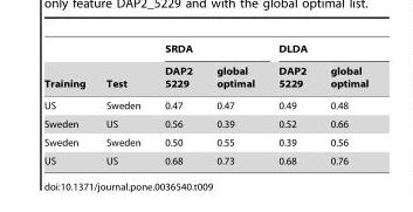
<table><thead><tr><td rowspan="2">Training</td><td rowspan="2">Test</td><td colspan="2">SRDA</td><td colspan="2">DLDA</td></tr><tr><td>DAP2 5229</td><td>global optimal</td><td>DAP2 5229</td><td>global optimal</td></tr></thead><tbody><tr><td>US</td><td>Sweden</td><td>0.47</td><td>0.47</td><td>0.49</td><td>0.48</td></tr><tr><td>Sweden</td><td>US</td><td>0.56</td><td>0.39</td><td>0.52</td><td>0.66</td></tr><tr><td>Sweden</td><td>Sweden</td><td>0.50</td><td>0.55</td><td>0.39</td><td>0.56</td></tr><tr><td>US</td><td>US</td><td>0.68</td><td>0.73</td><td>0.68</td><td>0.76</td></tr></tbody></table>